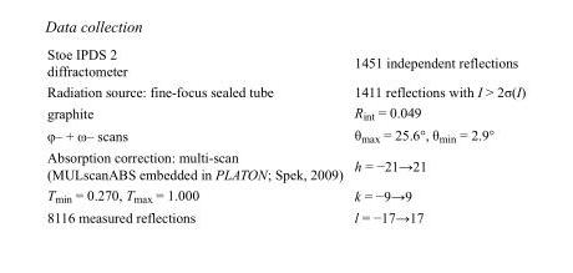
<table><tbody><tr><td>Stoe IPDS 2 diffractometer</td><td>1451 independent reflections</td></tr><tr><td>Radiation source: fine-focus sealed tube</td><td>1411 reflections with I &gt; 2σ(I)</td></tr><tr><td>graphite</td><td>R<sub>int</sub> = 0.049</td></tr><tr><td>φ– + ω– scans</td><td>θ<sub>max</sub> = 25.6°, θ<sub>min</sub> = 2.9°</td></tr><tr><td>Absorption correction: multi-scan (MULscanABS embedded in PLATON; Spek, 2009)</td><td>h = −21→21</td></tr><tr><td>T<sub>min</sub> = 0.270, T<sub>max</sub> = 1.000</td><td>k = −9→9</td></tr><tr><td>8116 measured reflections</td><td>l = −17→17</td></tr></tbody></table>